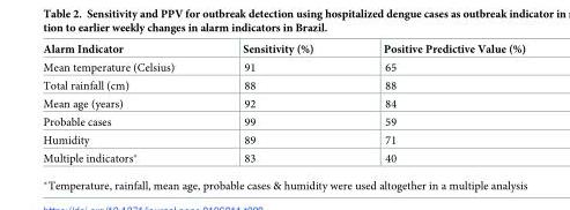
<table><thead><tr><td>Alarm Indicator</td><td>Sensitivity (%)</td><td>Positive Predictive Value (%)</td></tr></thead><tbody><tr><td>Mean temperature (Celsius)</td><td>91</td><td>65</td></tr><tr><td>Total rainfall (cm)</td><td>88</td><td>88</td></tr><tr><td>Mean age (years)</td><td>92</td><td>84</td></tr><tr><td>Probable cases</td><td>99</td><td>59</td></tr><tr><td>Humidity</td><td>89</td><td>71</td></tr><tr><td>Multiple indicators*</td><td>83</td><td>40</td></tr></tbody></table>